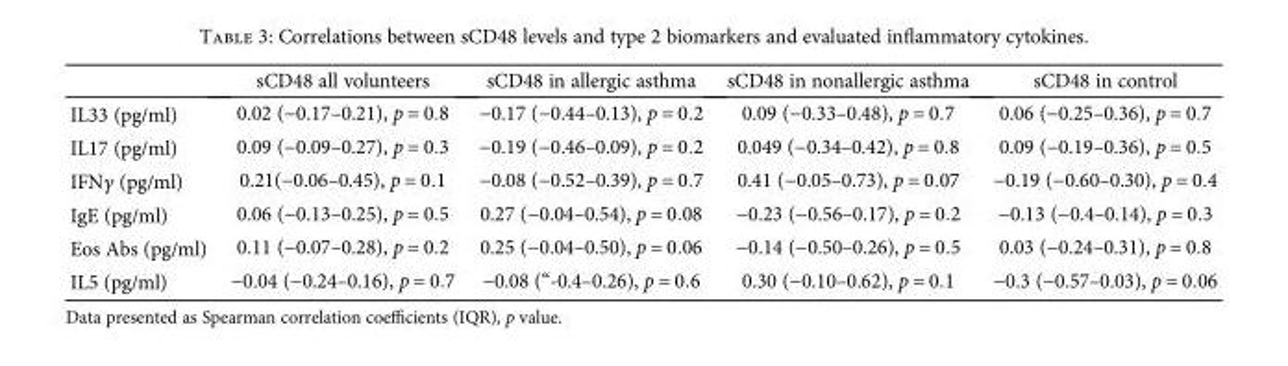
<table><thead><tr><td></td><td>sCD48 all volunteers</td><td>sCD48 in allergic asthma</td><td>sCD48 in nonallergic asthma</td><td>sCD48 in control</td></tr></thead><tbody><tr><td>IL33 (pg/ml)</td><td>0.02 (−0.17–0.21), p = 0 8</td><td>−0.17 (−0.44–0.13), p = 0 2</td><td>0.09 (−0.33–0.48), p = 0 7</td><td>0.06 (−0.25–0.36), p = 0 7</td></tr><tr><td>IL17 (pg/ml)</td><td>0.09 (−0.09–0.27), p = 0 3</td><td>−0.19 (−0.46–0.09), p = 0 2</td><td>0.049 (−0.34–0.42), p = 0 8</td><td>0.09 (−0.19–0.36), p = 0 5</td></tr><tr><td>IFNγ (pg/ml)</td><td>0.21(−0.06–0.45), p = 0 1</td><td>−0.08 (−0.52–0.39), p = 0 7</td><td>0.41 (−0.05–0.73), p = 0 07</td><td>−0.19 (−0.60–0.30), p = 0 4</td></tr><tr><td>IgE (pg/ml)</td><td>0.06 (−0.13–0.25), p = 0 5</td><td>0.27 (−0.04–0.54), p = 0 08</td><td>−0.23 (−0.56–0.17), p = 0 2</td><td>−0.13 (−0.4–0.14), p = 0 3</td></tr><tr><td>Eos Abs (pg/ml)</td><td>0.11 (−0.07–0.28), p = 0 2</td><td>0.25 (−0.04–0.50), p = 0 06</td><td>−0.14 (−0.50–0.26), p = 0 5</td><td>0.03 (−0.24–0.31), p = 0 8</td></tr><tr><td>IL5 (pg/ml)</td><td>−0.04 (−0.24–0.16), p = 0 7</td><td>−0.08 (“-0.4–0.26), p = 0 6</td><td>0.30 (−0.10–0.62), p = 0 1</td><td>−0.3 (−0.57–0.03), p = 0 06</td></tr></tbody></table>